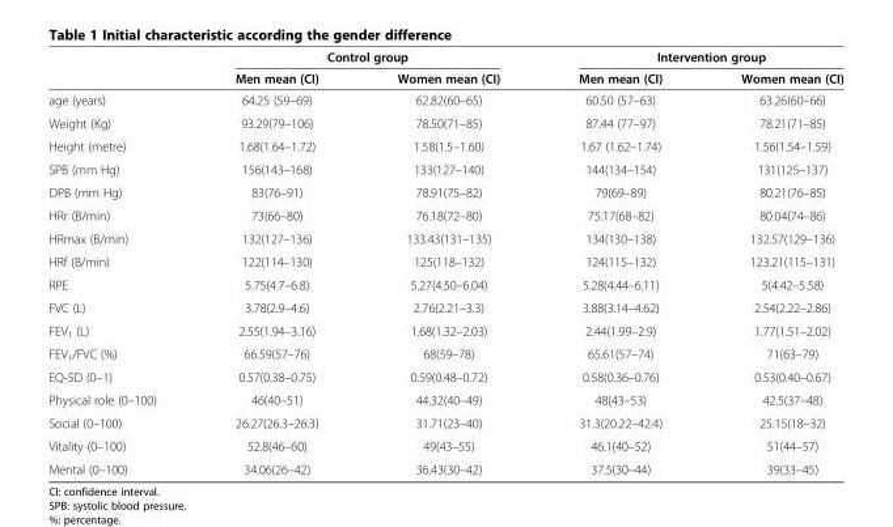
<table><thead><tr><td rowspan="2"></td><td colspan="2">Control group</td><td colspan="2">Intervention group</td></tr><tr><td>Men mean (CI)</td><td>Women mean (CI)</td><td>Men mean (CI)</td><td>Women mean (CI)</td></tr></thead><tbody><tr><td>age (years)</td><td>64.25 (59–69)</td><td>62.82(60–65)</td><td>60.50 (57–63)</td><td>63.26(60–66)</td></tr><tr><td>Weight (Kg)</td><td>93.29(79–106)</td><td>78.50(71–85)</td><td>87.44 (77–97)</td><td>78.21(71–85)</td></tr><tr><td>Height (metre)</td><td>1.68(1.64–1.72)</td><td>1.58(1.5–1.60)</td><td>1.67 (1.62–1.74)</td><td>1.56(1.54–1.59)</td></tr><tr><td>SPB (mm Hg)</td><td>156(143–168)</td><td>133(127–140)</td><td>144(134–154)</td><td>131(125–137)</td></tr><tr><td>DPB (mm Hg)</td><td>83(76–91)</td><td>78.91(75–82)</td><td>79(69–89)</td><td>80.21(76–85)</td></tr><tr><td>HRr (B/min)</td><td>73(66–80)</td><td>76.18(72–80)</td><td>75.17(68–82)</td><td>80.04(74–86)</td></tr><tr><td>HRmax (B/min)</td><td>132(127–136)</td><td>133.43(131–135)</td><td>134(130–138)</td><td>132.57(129–136)</td></tr><tr><td>HRf (B/min)</td><td>122(114–130)</td><td>125(118–132)</td><td>124(115–132)</td><td>123.21(115–131)</td></tr><tr><td>RPE</td><td>5.75(4.7–6.8)</td><td>5.27(4.50–6.04)</td><td>5.28(4.44–6.11)</td><td>5(4.42–5.58)</td></tr><tr><td>FVC (L)</td><td>3.78(2.9–4.6)</td><td>2.76(2.21–3.3)</td><td>3.88(3.14–4.62)</td><td>2.54(2.22–2.86)</td></tr><tr><td>FEV<sub>1</sub> (L)</td><td>2.55(1.94–3.16)</td><td>1.68(1.32–2.03)</td><td>2.44(1.99–2.9)</td><td>1.77(1.51–2.02)</td></tr><tr><td>FEV<sub>1</sub>/FVC (%)</td><td>66.59(57–76)</td><td>68(59–78)</td><td>65.61(57–74)</td><td>71(63–79)</td></tr><tr><td>EQ-5D (0–1)</td><td>0.57(0.38–0.75)</td><td>0.59(0.48–0.72)</td><td>0.58(0.36–0.76)</td><td>0.53(0.40–0.67)</td></tr><tr><td>Physical role (0–100)</td><td>46(40–51)</td><td>44.32(40–49)</td><td>48(43–53)</td><td>42.5(37–48)</td></tr><tr><td>Social (0–100)</td><td>26.27(26.3–26.3)</td><td>31.71(23–40)</td><td>31.3(20.22–42.4)</td><td>25.15(18–32)</td></tr><tr><td>Vitality (0–100)</td><td>52.8(46–60)</td><td>49(43–55)</td><td>46.1(40–52)</td><td>51(44–57)</td></tr><tr><td>Mental (0–100)</td><td>34.06(26–42)</td><td>36.43(30–42)</td><td>37.5(30–44)</td><td>39(33–45)</td></tr></tbody></table>